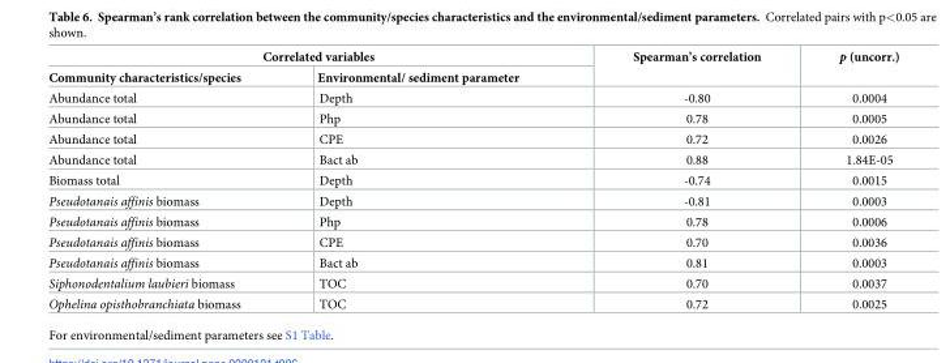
<table><thead><tr><td colspan="2">Correlated variables</td><td rowspan="2">Spearman’s correlation</td><td rowspan="2">p (uncorr.)</td></tr><tr><td>Community characteristics/species</td><td>Environmental/ sediment parameter</td></tr></thead><tbody><tr><td>Abundance total</td><td>Depth</td><td>-0.80</td><td>0.0004</td></tr><tr><td>Abundance total</td><td>Php</td><td>0.78</td><td>0.0005</td></tr><tr><td>Abundance total</td><td>CPE</td><td>0.72</td><td>0.0026</td></tr><tr><td>Abundance total</td><td>Bact ab</td><td>0.88</td><td>1.84E-05</td></tr><tr><td>Biomass total</td><td>Depth</td><td>-0.74</td><td>0.0015</td></tr><tr><td>Pseudotanais affinis biomass</td><td>Depth</td><td>-0.81</td><td>0.0003</td></tr><tr><td>Pseudotanais affinis biomass</td><td>Php</td><td>0.78</td><td>0.0006</td></tr><tr><td>Pseudotanais affinis biomass</td><td>CPE</td><td>0.70</td><td>0.0036</td></tr><tr><td>Pseudotanais affinis biomass</td><td>Bact ab</td><td>0.81</td><td>0.0003</td></tr><tr><td>Siphonodentalium laubieri biomass</td><td>TOC</td><td>0.70</td><td>0.0037</td></tr><tr><td>Ophelina opisthobranchiata biomass</td><td>TOC</td><td>0.72</td><td>0.0025</td></tr></tbody></table>